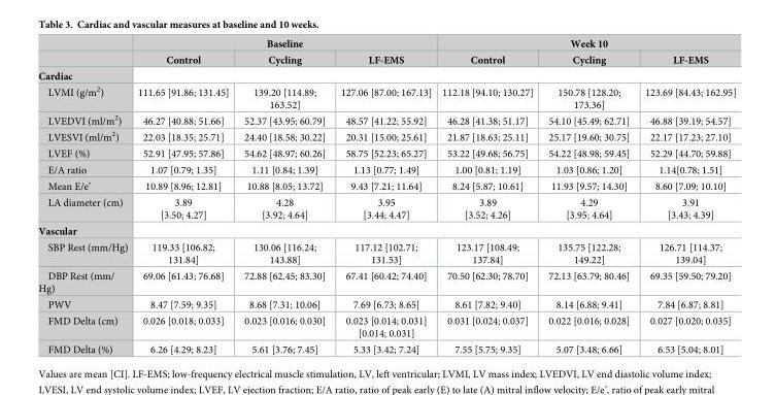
<table><thead><tr><td rowspan="2"></td><td colspan="3">Baseline</td><td colspan="3">Week 10</td></tr><tr><td>Control</td><td>Cycling</td><td>LF-EMS</td><td>Control</td><td>Cycling</td><td>LF-EMS</td></tr></thead><tbody><tr><td colspan="7">Cardiac</td></tr><tr><td>LVMI (g/m<sup>2</sup>)</td><td>111.65 [91.86; 131.45]</td><td>139.20 [114.89; 163.52]</td><td>127.06 [87.00; 167.13]</td><td>112.18 [94.10; 130.27]</td><td>150.78 [128.20; 173.36]</td><td>123.69 [84.43; 162.95]</td></tr><tr><td>LVEDVI (ml/m<sup>2</sup>)</td><td>46.27 [40.88; 51.66]</td><td>52.37 [43.95; 60.79]</td><td>48.57 [41.22; 55.92]</td><td>46.28 [41.38; 51.17]</td><td>54.10 [45.49; 62.71]</td><td>46.88 [39.19; 54.57]</td></tr><tr><td>LVESVI (ml/m<sup>2</sup>)</td><td>22.03 [18.35; 25.71]</td><td>24.40 [18.58; 30.22]</td><td>20.31 [15.00; 25.61]</td><td>21.87 [18.63; 25.11]</td><td>25.17 [19.60; 30.75]</td><td>22.17 [17.23; 27.10]</td></tr><tr><td>LVEF (%)</td><td>52.91 [47.95; 57.86]</td><td>54.62 [48.97; 60.26]</td><td>58.75 [52.23; 65.27]</td><td>53.22 [49.68; 56.75]</td><td>54.22 [48.98; 59.45]</td><td>52.29 [44.70; 59.88]</td></tr><tr><td>E/A ratio</td><td>1.07 [0.79; 1.35]</td><td>1.11 [0.84; 1.39]</td><td>1.13 [0.77; 1.49]</td><td>1.00 [0.81; 1.19]</td><td>1.03 [0.86; 1.20]</td><td>1.14[0.78; 1.51]</td></tr><tr><td>Mean E/e’</td><td>10.89 [8.96; 12.81]</td><td>10.88 [8.05; 13.72]</td><td>9.43 [7.21; 11.64]</td><td>8.24 [5.87; 10.61]</td><td>11.93 [9.57; 14.30]</td><td>8.60 [7.09; 10.10]</td></tr><tr><td>LA diameter (cm)</td><td>3.89 [3.50; 4.27]</td><td>4.28 [3.92; 4.64]</td><td>3.95 [3.44; 4.47]</td><td>3.89 [3.52; 4.26]</td><td>4.29 [3.95; 4.64]</td><td>3.91 [3.43; 4.39]</td></tr><tr><td colspan="7">Vascular</td></tr><tr><td>SBP Rest (mm/Hg)</td><td>119.33 [106.82; 131.84]</td><td>130.06 [116.24; 143.88]</td><td>117.12 [102.71; 131.53]</td><td>123.17 [108.49; 137.84]</td><td>135.75 [122.28; 149.22]</td><td>126.71 [114.37; 139.04]</td></tr><tr><td>DBP Rest (mm/ Hg)</td><td>69.06 [61.43; 76.68]</td><td>72.88 [62.45; 83.30]</td><td>67.41 [60.42; 74.40]</td><td>70.50 [62.30; 78.70]</td><td>72.13 [63.79; 80.46]</td><td>69.35 [59.50; 79.20]</td></tr><tr><td>PWV</td><td>8.47 [7.59; 9.35]</td><td>8.68 [7.31; 10.06]</td><td>7.69 [6.73; 8.65]</td><td>8.61 [7.82; 9.40]</td><td>8.14 [6.88; 9.41]</td><td>7.84 [6.87; 8.81]</td></tr><tr><td>FMD Delta (cm)</td><td>0.026 [0.018; 0.033]</td><td>0.023 [0.016; 0.030]</td><td>0.023 [0.014; 0.031] [0.014; 0.031]</td><td>0.031 [0.024; 0.037]</td><td>0.022 [0.016; 0.028]</td><td>0.027 [0.020; 0.035]</td></tr><tr><td>FMD Delta (%)</td><td>6.26 [4.29; 8.23]</td><td>5.61 [3.76; 7.45]</td><td>5.33 [3.42; 7.24]</td><td>7.55 [5.75; 9.35]</td><td>5.07 [3.48; 6.66]</td><td>6.53 [5.04; 8.01]</td></tr></tbody></table>